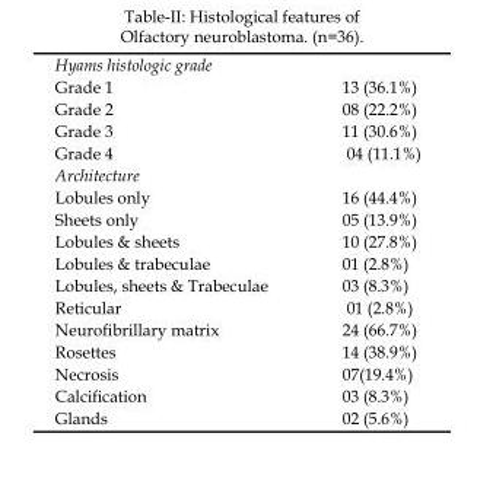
<table><thead><tr><td>Hyams histologic grade</td><td></td></tr></thead><tbody><tr><td>Grade 1</td><td>13 (36.1%)</td></tr><tr><td>Grade 2</td><td>08 (22.2%)</td></tr><tr><td>Grade 3</td><td>11 (30.6%)</td></tr><tr><td>Grade 4</td><td>04 (11.1%)</td></tr><tr><td colspan="2">Architecture</td></tr><tr><td>Lobules only</td><td>16 (44.4%)</td></tr><tr><td>Sheets only</td><td>05 (13.9%)</td></tr><tr><td>Lobules &amp; sheets</td><td>10 (27.8%)</td></tr><tr><td>Lobules &amp; trabeculae</td><td>01 (2.8%)</td></tr><tr><td>Lobules, sheets &amp; Trabeculae</td><td>03 (8.3%)</td></tr><tr><td>Reticular</td><td>01 (2.8%)</td></tr><tr><td>Neurofibrillary matrix</td><td>24 (66.7%)</td></tr><tr><td>Rosettes</td><td>14 (38.9%)</td></tr><tr><td>Necrosis</td><td>07(19.4%)</td></tr><tr><td>Calcification</td><td>03 (8.3%)</td></tr><tr><td>Glands</td><td>02 (5.6%)</td></tr></tbody></table>